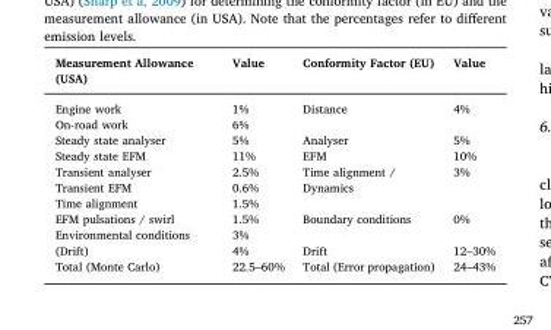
<table><thead><tr><td>Measurement Allowance (USA)</td><td>Value</td><td>Conformity Factor (EU)</td><td>Value</td></tr></thead><tbody><tr><td>Engine work</td><td>1%</td><td rowspan="2">Distance</td><td rowspan="2">4%</td></tr><tr><td>On-road work</td><td>6%</td></tr><tr><td>Steady state analyser</td><td>5%</td><td>Analyser</td><td>5%</td></tr><tr><td>Steady state EFM</td><td>11%</td><td>EFM</td><td>10%</td></tr><tr><td>Transient analyser</td><td>2.5%</td><td rowspan="3">Time alignment / Dynamics</td><td rowspan="3">3%</td></tr><tr><td>Transient EFM</td><td>0.6%</td></tr><tr><td>Time alignment</td><td>1.5%</td></tr><tr><td>EFM pulsations / swirl</td><td>1.5%</td><td rowspan="2">Boundary conditions</td><td rowspan="2">0%</td></tr><tr><td>Environmental conditions</td><td>3%</td></tr><tr><td>(Drift)</td><td>4%</td><td>Drift</td><td>12–30%</td></tr><tr><td>Total (Monte Carlo)</td><td>22.5–60%</td><td>Total (Error propagation)</td><td>24–43%</td></tr></tbody></table>